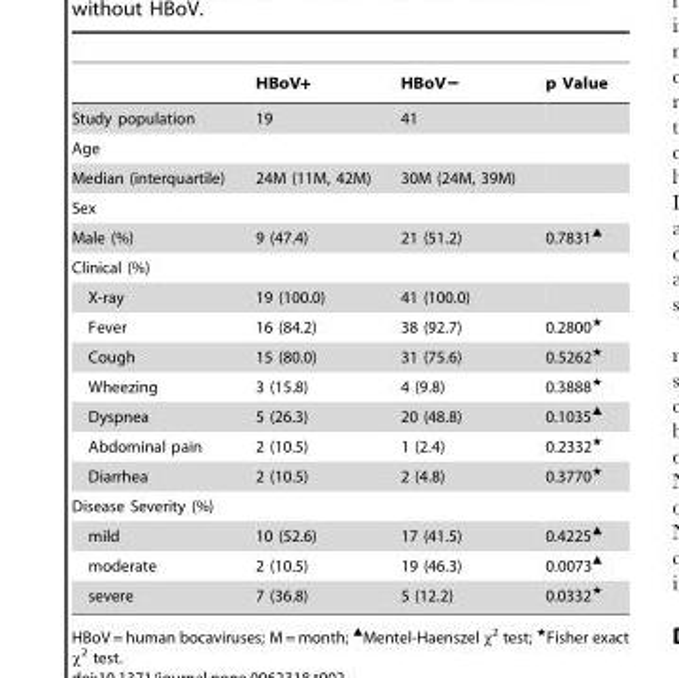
<table><thead><tr><td></td><td>HBoV+</td><td>HBoV−</td><td>p Value</td></tr></thead><tbody><tr><td>Study population</td><td>19</td><td>41</td><td></td></tr><tr><td colspan="4">Age</td></tr><tr><td>Median (interquartile)</td><td>24M (11M, 42M)</td><td>30M (24M, 39M)</td><td></td></tr><tr><td colspan="4">Sex</td></tr><tr><td>Male (%)</td><td>9 (47.4)</td><td>21 (51.2)</td><td>0.7831<sup>▴</sup></td></tr><tr><td colspan="4">Clinical (%)</td></tr><tr><td>X-ray</td><td>19 (100.0)</td><td>41 (100.0)</td><td></td></tr><tr><td>Fever</td><td>16 (84.2)</td><td>38 (92.7)</td><td>0.2800<sup>★</sup></td></tr><tr><td>Cough</td><td>15 (80.0)</td><td>31 (75.6)</td><td>0.5262<sup>★</sup></td></tr><tr><td>Wheezing</td><td>3 (15.8)</td><td>4 (9.8)</td><td>0.3888<sup>★</sup></td></tr><tr><td>Dyspnea</td><td>5 (26.3)</td><td>20 (48.8)</td><td>0.1035<sup>▴</sup></td></tr><tr><td>Abdominal pain</td><td>2 (10.5)</td><td>1 (2.4)</td><td>0.2332<sup>★</sup></td></tr><tr><td>Diarrhea</td><td>2 (10.5)</td><td>2 (4.8)</td><td>0.3770<sup>★</sup></td></tr><tr><td colspan="4">Disease Severity (%)</td></tr><tr><td>mild</td><td>10 (52.6)</td><td>17 (41.5)</td><td>0.4225<sup>▴</sup></td></tr><tr><td>moderate</td><td>2 (10.5)</td><td>19 (46.3)</td><td>0.0073<sup>▴</sup></td></tr><tr><td>severe</td><td>7 (36.8)</td><td>5 (12.2)</td><td>0.0332<sup>★</sup></td></tr></tbody></table>